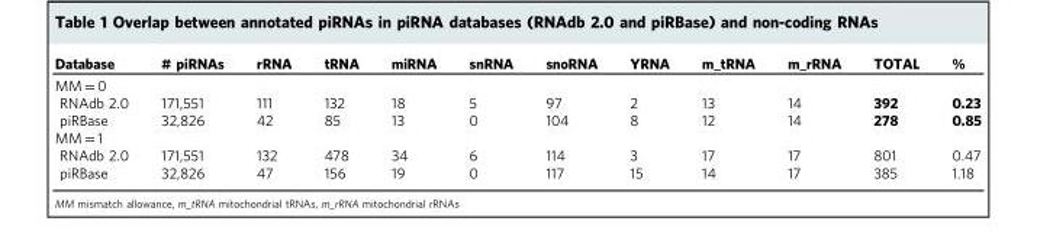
<table><thead><tr><td>Database</td><td># piRNAs</td><td>rRNA</td><td>tRNA</td><td>miRNA</td><td>snRNA</td><td>snoRNA</td><td>YRNA</td><td>m_tRNA</td><td>m_rRNA</td><td>TOTAL</td><td>%</td></tr></thead><tbody><tr><td colspan="12">MM = 0</td></tr><tr><td>RNAdb 2.0</td><td>171,551</td><td>111</td><td>132</td><td>18</td><td>5</td><td>97</td><td>2</td><td>13</td><td>14</td><td>392</td><td>0.23</td></tr><tr><td>piRBase</td><td>32,826</td><td>42</td><td>85</td><td>13</td><td>0</td><td>104</td><td>8</td><td>12</td><td>14</td><td>278</td><td>0.85</td></tr><tr><td colspan="12">MM = 1</td></tr><tr><td>RNAdb 2.0</td><td>171,551</td><td>132</td><td>478</td><td>34</td><td>6</td><td>114</td><td>3</td><td>17</td><td>17</td><td>801</td><td>0.47</td></tr><tr><td>piRBase</td><td>32,826</td><td>47</td><td>156</td><td>19</td><td>0</td><td>117</td><td>15</td><td>14</td><td>17</td><td>385</td><td>1.18</td></tr></tbody></table>